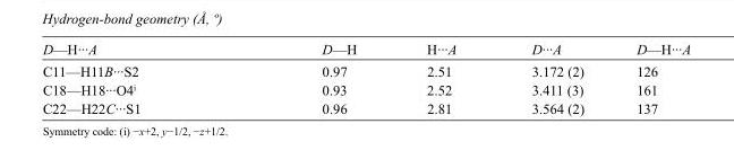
<table><tbody><tr><td>D—H···A</td><td>D—H</td><td>H···A</td><td>D···A</td><td>D—H···A</td></tr><tr><td>C11—H11B···S2</td><td>0.97</td><td>2.51</td><td>3.172 (2)</td><td>126</td></tr><tr><td>C18—H18···O4<sup>i</sup></td><td>0.93</td><td>2.52</td><td>3.411 (3)</td><td>161</td></tr><tr><td>C22—H22C···S1</td><td>0.96</td><td>2.81</td><td>3.564 (2)</td><td>137</td></tr></tbody></table>